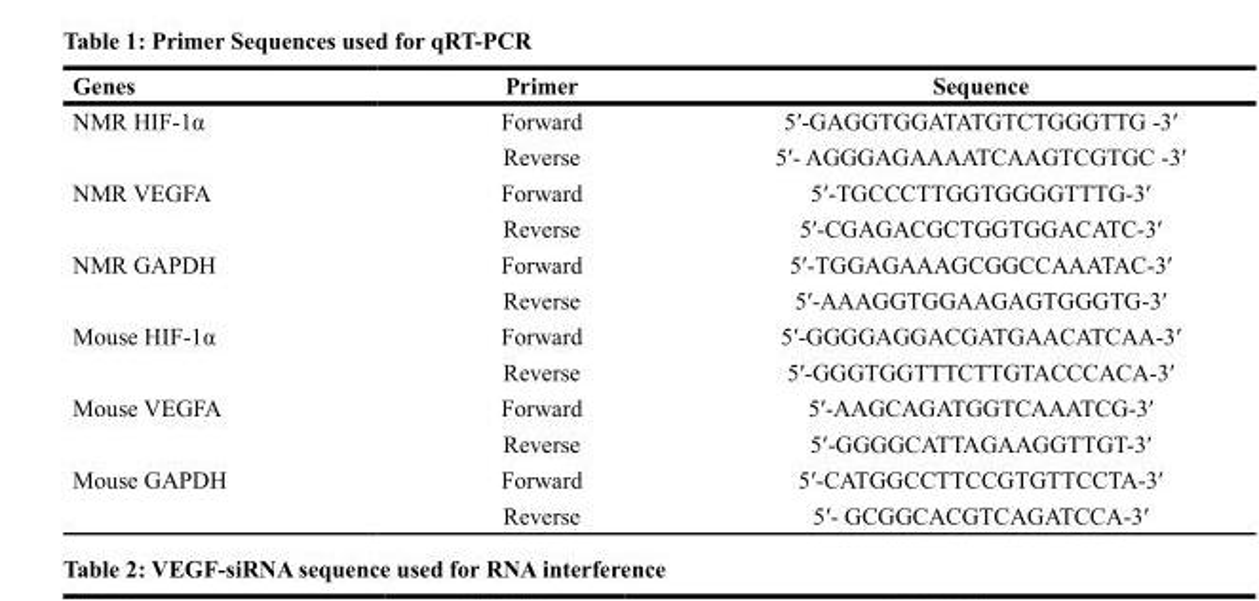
<table><thead><tr><td>Genes</td><td>Primer</td><td>Sequence</td></tr></thead><tbody><tr><td rowspan="2">NMR HIF-1α</td><td>Forward</td><td>5′-GAGGTGGATATGTCTGGGTTG -3′</td></tr><tr><td>Reverse</td><td>5′- AGGGAGAAAATCAAGTCGTGC -3′</td></tr><tr><td rowspan="2">NMR VEGFA</td><td>Forward</td><td>5′-TGCCCTTGGTGGGGTTTG-3′</td></tr><tr><td>Reverse</td><td>5′-CGAGACGCTGGTGGACATC-3′</td></tr><tr><td rowspan="2">NMR GAPDH</td><td>Forward</td><td>5′-TGGAGAAAGCGGCCAAATAC-3′</td></tr><tr><td>Reverse</td><td>5′-AAAGGTGGAAGAGTGGGTG-3′</td></tr><tr><td rowspan="2">Mouse HIF-1α</td><td>Forward</td><td>5′-GGGGAGGACGATGAACATCAA-3′</td></tr><tr><td>Reverse</td><td>5′-GGGTGGTTTCTTGTACCCACA-3′</td></tr><tr><td rowspan="2">Mouse VEGFA</td><td>Forward</td><td>5′-AAGCAGATGGTCAAATCG-3′</td></tr><tr><td>Reverse</td><td>5′-GGGGCATTAGAAGGTTGT-3′</td></tr><tr><td rowspan="2">Mouse GAPDH</td><td>Forward</td><td>5′-CATGGCCTTCCGTGTTCCTA-3′</td></tr><tr><td>Reverse</td><td>5′- GCGGCACGTCAGATCCA-3′</td></tr></tbody></table>